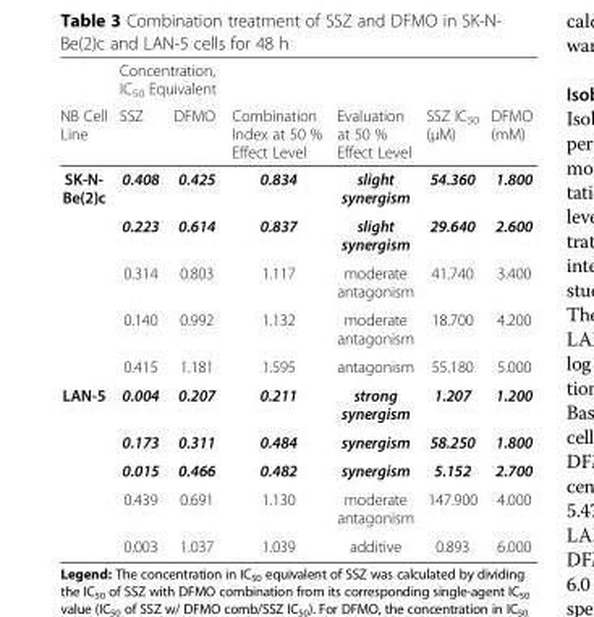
<table><thead><tr><td rowspan="2">NB Cell Line</td><td colspan="2">Concentration, IC<sub>50</sub> Equivalent</td><td rowspan="2">Combination Index at 50 % Effect Level</td><td rowspan="2">Evaluation at 50 % Effect Level</td><td rowspan="2">SSZ IC<sub>50</sub> (μM)</td><td rowspan="2">DFMO (mM)</td></tr><tr><td>SSZ</td><td>DFMO</td></tr></thead><tbody><tr><td rowspan="5">SK-N- Be(2)c</td><td>0.408</td><td>0.425</td><td>0.834</td><td>slight synergism</td><td>54.360</td><td>1.800</td></tr><tr><td>0.223</td><td>0.614</td><td>0.837</td><td>slight synergism</td><td>29.640</td><td>2.600</td></tr><tr><td>0.314</td><td>0.803</td><td>1.117</td><td>moderate antagonism</td><td>41.740</td><td>3.400</td></tr><tr><td>0.140</td><td>0.992</td><td>1.132</td><td>moderate antagonism</td><td>18.700</td><td>4.200</td></tr><tr><td>0.415</td><td>1.181</td><td>1.595</td><td>antagonism</td><td>55.180</td><td>5.000</td></tr><tr><td rowspan="5">LAN-5</td><td>0.004</td><td>0.207</td><td>0.211</td><td>strong synergism</td><td>1.207</td><td>1.200</td></tr><tr><td>0.173</td><td>0.311</td><td>0.484</td><td>synergism</td><td>58.250</td><td>1.800</td></tr><tr><td>0.015</td><td>0.466</td><td>0.482</td><td>synergism</td><td>5.152</td><td>2.700</td></tr><tr><td>0.439</td><td>0.691</td><td>1.130</td><td>moderate antagonism</td><td>147.900</td><td>4.000</td></tr><tr><td>0.003</td><td>1.037</td><td>1.039</td><td>additive</td><td>0.893</td><td>6.000</td></tr></tbody></table>